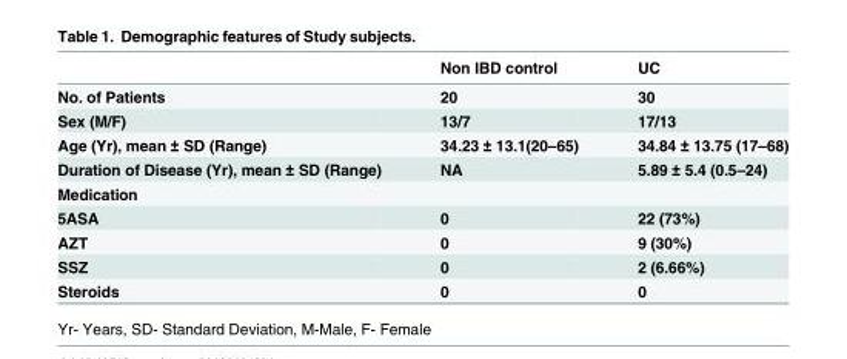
<table><thead><tr><td></td><td>Non IBD control</td><td>UC</td></tr></thead><tbody><tr><td>No. of Patients</td><td>20</td><td>30</td></tr><tr><td>Sex (M/F)</td><td>13/7</td><td>17/13</td></tr><tr><td>Age (Yr), mean ± SD (Range)</td><td>34.23 ± 13.1(20–65)</td><td>34.84 ± 13.75 (17–68)</td></tr><tr><td>Duration of Disease (Yr), mean ± SD (Range)</td><td>NA</td><td>5.89 ± 5.4 (0.5–24)</td></tr><tr><td colspan="3">Medication</td></tr><tr><td>5ASA</td><td>0</td><td>22 (73%)</td></tr><tr><td>AZT</td><td>0</td><td>9 (30%)</td></tr><tr><td>SSZ</td><td>0</td><td>2 (6.66%)</td></tr><tr><td>Steroids</td><td>0</td><td>0</td></tr></tbody></table>